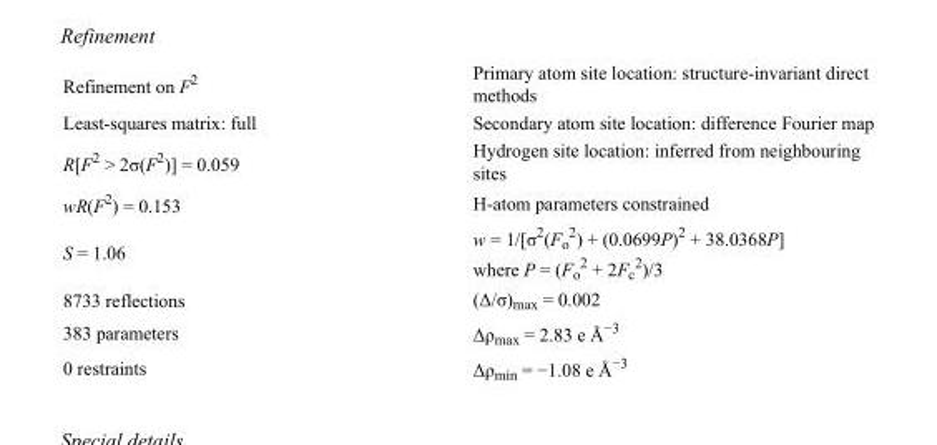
<table><tbody><tr><td>Refinement on F<sup>2</sup></td><td>Primary atom site location: structure-invariant direct methods</td></tr><tr><td>Least-squares matrix: full</td><td>Secondary atom site location: difference Fourier map</td></tr><tr><td>R[F<sup>2</sup> &gt; 2σ(F<sup>2</sup>)] = 0.059</td><td>Hydrogen site location: inferred from neighbouring sites</td></tr><tr><td>wR(F<sup>2</sup>) = 0.153</td><td>H-atom parameters constrained</td></tr><tr><td>S = 1.06</td><td>w = 1/[σ<sup>2</sup>(F<sub>o</sub> <sup>2</sup>) + (0.0699P)<sup>2</sup> + 38.0368P] where P = (F<sub>o</sub> <sup>2</sup> + 2F<sub>c</sub> <sup>2</sup>)/3</td></tr><tr><td>8733 reflections</td><td>(Δ/σ)<sub>max</sub> = 0.002</td></tr><tr><td>383 parameters</td><td>Δρ<sub>max</sub> = 2.83 e Å<sup>−3</sup></td></tr><tr><td>0 restraints</td><td>Δρ<sub>min</sub> = −1.08 e Å<sup>−3</sup></td></tr></tbody></table>